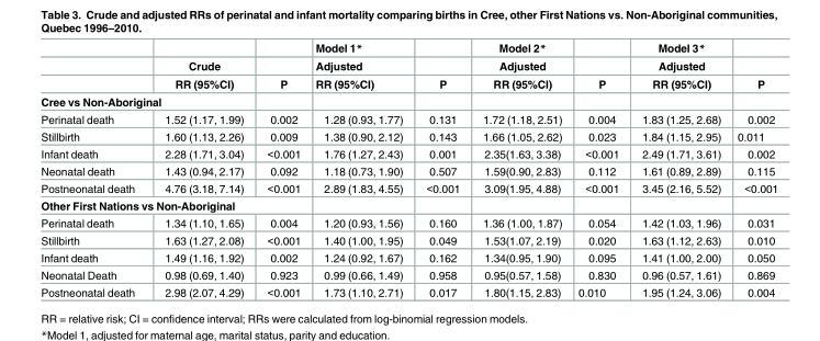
<table><thead><tr><td rowspan="3"></td><td rowspan="3">Crude RR (95%CI)</td><td rowspan="3">P</td><td rowspan="3">Model 1* Adjusted RR (95%CI)</td><td rowspan="3">P</td><td rowspan="3">Model 2* Adjusted RR (95%CI)</td><td rowspan="3">P</td><td rowspan="3">Model 3* Adjusted RR (95%CI)</td><td rowspan="3">P</td></tr><tr></tr><tr></tr></thead><tbody><tr><td colspan="9">Cree vs Non-Aboriginal</td></tr><tr><td>Perinatal death</td><td>1.52 (1.17, 1.99)</td><td>0.002</td><td>1.28 (0.93, 1.77)</td><td>0.131</td><td>1.72 (1.18, 2.51)</td><td>0.004</td><td>1.83 (1.25, 2.68)</td><td>0.002</td></tr><tr><td>Stillbirth</td><td>1.60 (1.13, 2.26)</td><td>0.009</td><td>1.38 (0.90, 2.12)</td><td>0.143</td><td>1.66 (1.05, 2.62)</td><td>0.023</td><td>1.84 (1.15, 2.95)</td><td>0.011</td></tr><tr><td>Infant death</td><td>2.28 (1.71, 3.04)</td><td>&lt;0.001</td><td>1.76 (1.27, 2.43)</td><td>0.001</td><td>2.35(1.63, 3.38)</td><td>&lt;0.001</td><td>2.49 (1.71, 3.61)</td><td>0.002</td></tr><tr><td>Neonatal death</td><td>1.43 (0.94, 2.17)</td><td>0.092</td><td>1.18 (0.73, 1.90)</td><td>0.507</td><td>1.59(0.90, 2.83)</td><td>0.112</td><td>1.61 (0.89, 2.89)</td><td>0.115</td></tr><tr><td>Postneonatal death</td><td>4.76 (3.18, 7.14)</td><td>&lt;0.001</td><td>2.89 (1.83, 4.55)</td><td>&lt;0.001</td><td>3.09(1.95, 4.88)</td><td>&lt;0.001</td><td>3.45 (2.16, 5.52)</td><td>&lt;0.001</td></tr><tr><td colspan="9">Other First Nations vs Non-Aboriginal</td></tr><tr><td>Perinatal death</td><td>1.34 (1.10, 1.65)</td><td>0.004</td><td>1.20 (0.93, 1.56)</td><td>0.160</td><td>1.36 (1.00, 1.87)</td><td>0.054</td><td>1.42 (1.03, 1.96)</td><td>0.031</td></tr><tr><td>Stillbirth</td><td>1.63 (1.27, 2.08)</td><td>&lt;0.001</td><td>1.40 (1.00, 1.95)</td><td>0.049</td><td>1.53(1.07, 2.19)</td><td>0.020</td><td>1.63 (1.12, 2.63)</td><td>0.010</td></tr><tr><td>Infant death</td><td>1.49 (1.16, 1.92)</td><td>0.002</td><td>1.24 (0.92, 1.67)</td><td>0.162</td><td>1.34(0.95, 1.90)</td><td>0.095</td><td>1.41 (1.00, 2.00)</td><td>0.050</td></tr><tr><td>Neonatal Death</td><td>0.98 (0.69, 1.40)</td><td>0.923</td><td>0.99 (0.66, 1.49)</td><td>0.958</td><td>0.95(0.57, 1.58)</td><td>0.830</td><td>0.96 (0.57, 1.61)</td><td>0.869</td></tr><tr><td>Postneonatal death</td><td>2.98 (2.07, 4.29)</td><td>&lt;0.001</td><td>1.73 (1.10, 2.71)</td><td>0.017</td><td>1.80(1.15, 2.83)</td><td>0.010</td><td>1.95 (1.24, 3.06)</td><td>0.004</td></tr></tbody></table>